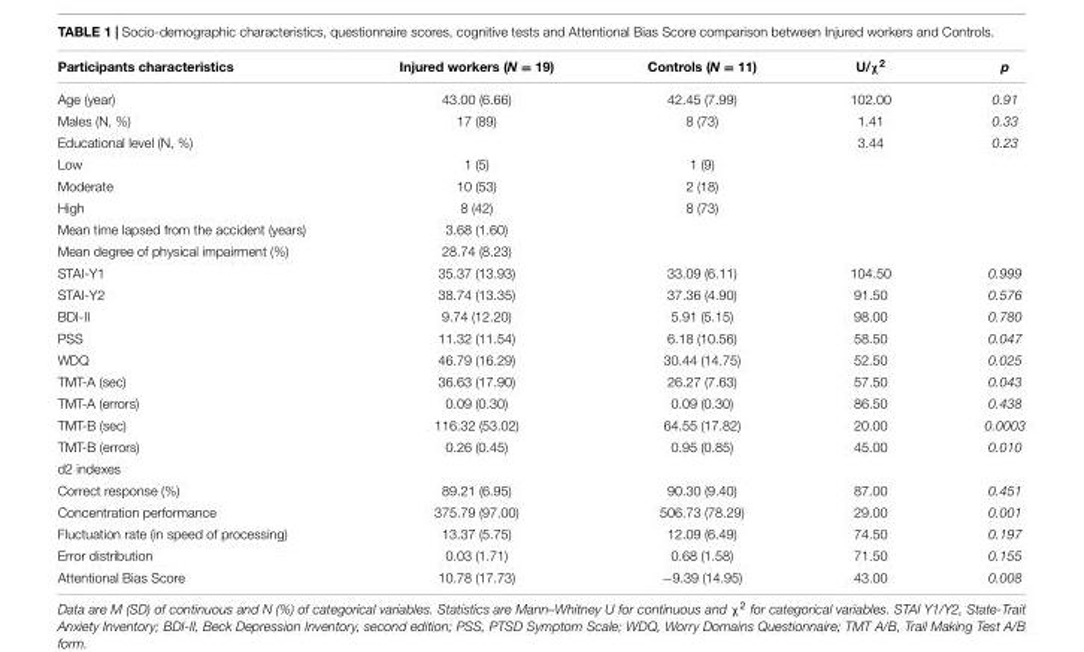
<table><thead><tr><td>Participants characteristics</td><td>Injured workers (N = 19)</td><td>Controls (N = 11)</td><td>U/χ<sup>2</sup></td><td>p</td></tr></thead><tbody><tr><td>Age (year)</td><td>43.00 (6.66)</td><td>42.45 (7.99)</td><td>102.00</td><td>0.91</td></tr><tr><td>Males (N, %)</td><td>17 (89)</td><td>8 (73)</td><td>1.41</td><td>0.33</td></tr><tr><td>Educational level (N, %)</td><td></td><td></td><td>3.44</td><td>0.23</td></tr><tr><td>Low</td><td>1 (5)</td><td>1 (9)</td><td></td><td></td></tr><tr><td>Moderate</td><td>10 (53)</td><td>2 (18)</td><td></td><td></td></tr><tr><td>High</td><td>8 (42)</td><td>8 (73)</td><td></td><td></td></tr><tr><td>Mean time lapsed from the accident (years)</td><td>3.68 (1.60)</td><td></td><td></td><td></td></tr><tr><td>Mean degree of physical impairment (%)</td><td>28.74 (8.23)</td><td></td><td></td><td></td></tr><tr><td>STAI-Y1</td><td>35.37 (13.93)</td><td>33.09 (6.11)</td><td>104.50</td><td>0.999</td></tr><tr><td>STAI-Y2</td><td>38.74 (13.35)</td><td>37.36 (4.90)</td><td>91.50</td><td>0.576</td></tr><tr><td>BDI-II</td><td>9.74 (12.20)</td><td>5.91 (5.15)</td><td>98.00</td><td>0.780</td></tr><tr><td>PSS</td><td>11.32 (11.54)</td><td>6.18 (10.56)</td><td>58.50</td><td>0.047</td></tr><tr><td>WDQ</td><td>46.79 (16.29)</td><td>30.44 (14.75)</td><td>52.50</td><td>0.025</td></tr><tr><td>TMT-A (sec)</td><td>36.63 (17.90)</td><td>26.27 (7.63)</td><td>57.50</td><td>0.043</td></tr><tr><td>TMT-A (errors)</td><td>0.09 (0.30)</td><td>0.09 (0.30)</td><td>86.50</td><td>0.438</td></tr><tr><td>TMT-B (sec)</td><td>116.32 (53.02)</td><td>64.55 (17.82)</td><td>20.00</td><td>0.0003</td></tr><tr><td>TMT-B (errors)</td><td>0.26 (0.45)</td><td>0.95 (0.85)</td><td>45.00</td><td>0.010</td></tr><tr><td colspan="5">d2 indexes</td></tr><tr><td>Correct response (%)</td><td>89.21 (6.95)</td><td>90.30 (9.40)</td><td>87.00</td><td>0.451</td></tr><tr><td>Concentration performance</td><td>375.79 (97.00)</td><td>506.73 (78.29)</td><td>29.00</td><td>0.001</td></tr><tr><td>Fluctuation rate (in speed of processing)</td><td>13.37 (5.75)</td><td>12.09 (6.49)</td><td>74.50</td><td>0.197</td></tr><tr><td>Error distribution</td><td>0.03 (1.71)</td><td>0.68 (1.58)</td><td>71.50</td><td>0.155</td></tr><tr><td>Attentional Bias Score</td><td>10.78 (17.73)</td><td>−9.39 (14.95)</td><td>43.00</td><td>0.008</td></tr></tbody></table>